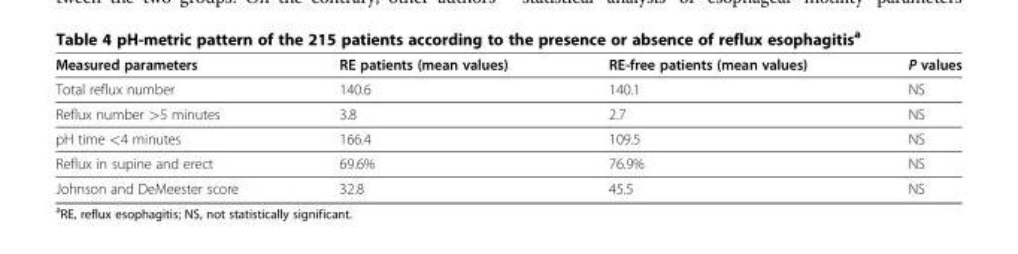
<table><thead><tr><td>Measured parameters</td><td>RE patients (mean values)</td><td>RE-free patients (mean values)</td><td>P values</td></tr></thead><tbody><tr><td>Total reflux number</td><td>140.6</td><td>140.1</td><td>NS</td></tr><tr><td>Reflux number &gt;5 minutes</td><td>3.8</td><td>2.7</td><td>NS</td></tr><tr><td>pH time &lt;4 minutes</td><td>166.4</td><td>109.5</td><td>NS</td></tr><tr><td>Reflux in supine and erect</td><td>69.6%</td><td>76.9%</td><td>NS</td></tr><tr><td>Johnson and DeMeester score</td><td>32.8</td><td>45.5</td><td>NS</td></tr></tbody></table>